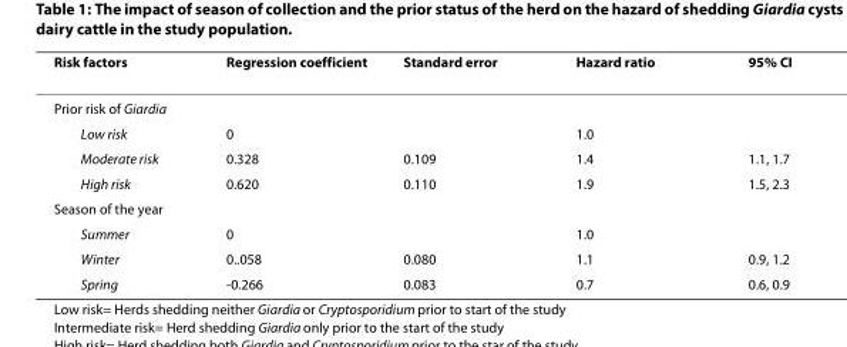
<table><thead><tr><td>Risk factors</td><td>Regression coefficient</td><td>Standard error</td><td>Hazard ratio</td><td>95% CI</td></tr></thead><tbody><tr><td colspan="5">Prior risk of Giardia</td></tr><tr><td>Low risk</td><td>0</td><td></td><td>1.0</td><td></td></tr><tr><td>Moderate risk</td><td>0.328</td><td>0.109</td><td>1.4</td><td>1.1, 1.7</td></tr><tr><td>High risk</td><td>0.620</td><td>0.110</td><td>1.9</td><td>1.5, 2.3</td></tr><tr><td colspan="5">Season of the year</td></tr><tr><td>Summer</td><td>0</td><td></td><td>1.0</td><td></td></tr><tr><td>Winter</td><td>0..058</td><td>0.080</td><td>1.1</td><td>0.9, 1.2</td></tr><tr><td>Spring</td><td>-0.266</td><td>0.083</td><td>0.7</td><td>0.6, 0.9</td></tr></tbody></table>